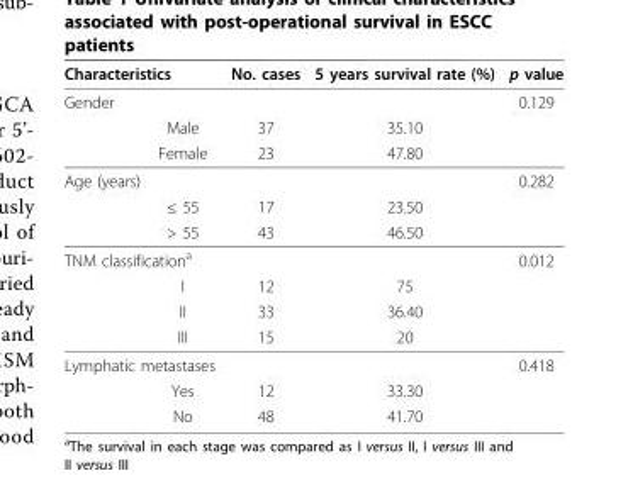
<table><thead><tr><td colspan="2">Characteristics</td><td rowspan="2">No. cases</td><td rowspan="2">5 years survival rate (%)</td><td rowspan="2">p value 0.129</td></tr><tr><td>Gender</td><td></td></tr></thead><tbody><tr><td></td><td>Male</td><td>37</td><td>35.10</td><td></td></tr><tr><td></td><td>Female</td><td>23</td><td>47.80</td><td></td></tr><tr><td colspan="2">Age (years)</td><td></td><td></td><td>0.282</td></tr><tr><td></td><td>≤ 55</td><td>17</td><td>23.50</td><td></td></tr><tr><td></td><td>&gt; 55</td><td>43</td><td>46.50</td><td></td></tr><tr><td colspan="2">TNM classification<sup>a</sup></td><td></td><td></td><td>0.012</td></tr><tr><td></td><td>I</td><td>12</td><td>75</td><td></td></tr><tr><td></td><td>II</td><td>33</td><td>36.40</td><td></td></tr><tr><td></td><td>III</td><td>15</td><td>20</td><td></td></tr><tr><td colspan="2">Lymphatic metastases</td><td></td><td></td><td>0.418</td></tr><tr><td></td><td>Yes</td><td>12</td><td>33.30</td><td></td></tr><tr><td></td><td>No</td><td>48</td><td>41.70</td><td></td></tr></tbody></table>